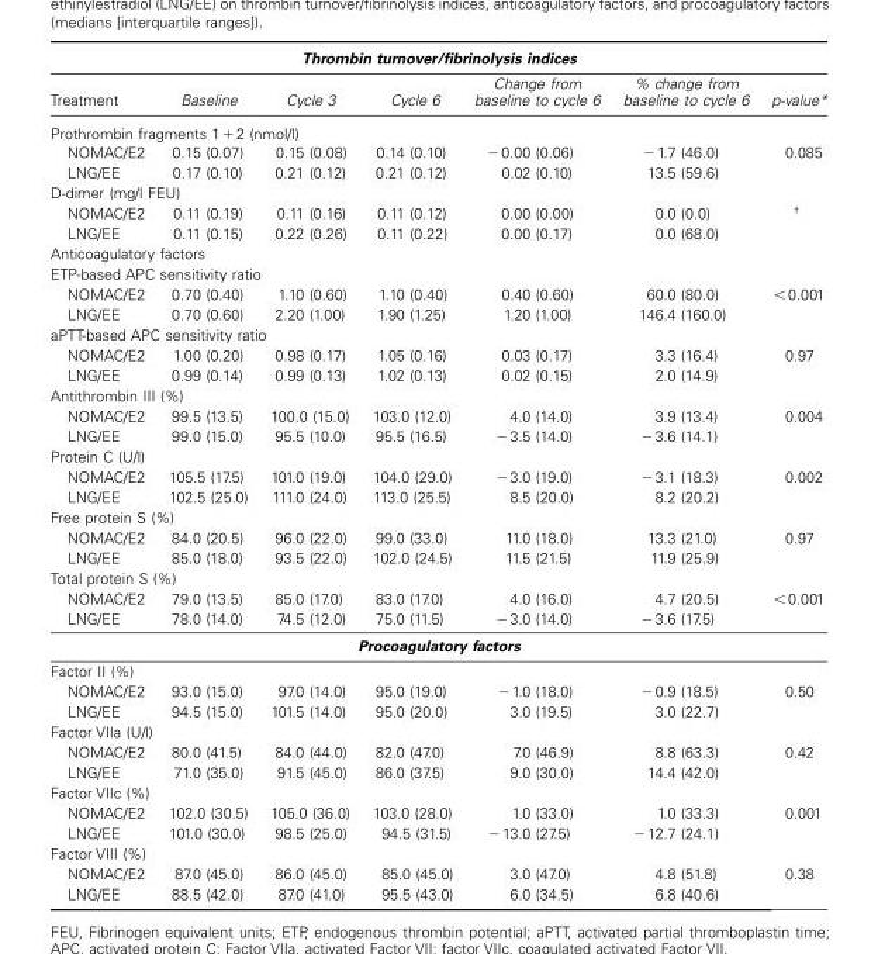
<table><thead><tr><td colspan="7">Thrombin turnover/fi brinolysis indices</td></tr><tr><td>Treatment</td><td>Baseline</td><td>Cycle 3</td><td>Cycle 6</td><td>Change from baseline to cycle 6</td><td>% change from baseline to cycle 6</td><td>p-value *</td></tr></thead><tbody><tr><td colspan="7">Prothrombin fragments 1 + 2 (nmol/l)</td></tr><tr><td>NOMAC/E2</td><td>0.15 (0.07)</td><td>0.15 (0.08)</td><td>0.14 (0.10)</td><td>− 0.00 (0.06)</td><td>− 1.7 (46.0)</td><td>0.085</td></tr><tr><td>LNG/EE</td><td>0.17 (0.10)</td><td>0.21 (0.12)</td><td>0.21 (0.12)</td><td>0.02 (0.10)</td><td>13.5 (59.6)</td><td></td></tr><tr><td colspan="7">D-dimer (mg/l FEU)</td></tr><tr><td>NOMAC/E2</td><td>0.11 (0.19)</td><td>0.11 (0.16)</td><td>0.11 (0.12)</td><td>0.00 (0.00)</td><td>0.0 (0.0)</td><td>†</td></tr><tr><td>LNG/EE</td><td>0.11 (0.15)</td><td>0.22 (0.26)</td><td>0.11 (0.22)</td><td>0.00 (0.17)</td><td>0.0 (68.0)</td><td></td></tr><tr><td colspan="7">Anticoagulatory factors</td></tr><tr><td colspan="7">ETP-based APC sensitivity ratio</td></tr><tr><td>NOMAC/E2</td><td>0.70 (0.40)</td><td>1.10 (0.60)</td><td>1.10 (0.40)</td><td>0.40 (0.60)</td><td>60.0 (80.0)</td><td>&lt; 0.001</td></tr><tr><td>LNG/EE</td><td>0.70 (0.60)</td><td>2.20 (1.00)</td><td>1.90 (1.25)</td><td>1.20 (1.00)</td><td>146.4 (160.0)</td><td></td></tr><tr><td colspan="7">aPTT-based APC sensitivity ratio</td></tr><tr><td>NOMAC/E2</td><td>1.00 (0.20)</td><td>0.98 (0.17)</td><td>1.05 (0.16)</td><td>0.03 (0.17)</td><td>3.3 (16.4)</td><td>0.97</td></tr><tr><td>LNG/EE</td><td>0.99 (0.14)</td><td>0.99 (0.13)</td><td>1.02 (0.13)</td><td>0.02 (0.15)</td><td>2.0 (14.9)</td><td></td></tr><tr><td colspan="7">Antithrombin III (%)</td></tr><tr><td>NOMAC/E2</td><td>99.5 (13.5)</td><td>100.0 (15.0)</td><td>103.0 (12.0)</td><td>4.0 (14.0)</td><td>3.9 (13.4)</td><td>0.004</td></tr><tr><td>LNG/EE</td><td>99.0 (15.0)</td><td>95.5 (10.0)</td><td>95.5 (16.5)</td><td>− 3.5 (14.0)</td><td>− 3.6 (14.1)</td><td></td></tr><tr><td colspan="7">Protein C (U/l)</td></tr><tr><td>NOMAC/E2</td><td>105.5 (17.5)</td><td>101.0 (19.0)</td><td>104.0 (29.0)</td><td>− 3.0 (19.0)</td><td>− 3.1 (18.3)</td><td>0.002</td></tr><tr><td>LNG/EE</td><td>102.5 (25.0)</td><td>111.0 (24.0)</td><td>113.0 (25.5)</td><td>8.5 (20.0)</td><td>8.2 (20.2)</td><td></td></tr><tr><td colspan="7">Free protein S (%)</td></tr><tr><td>NOMAC/E2</td><td>84.0 (20.5)</td><td>96.0 (22.0)</td><td>99.0 (33.0)</td><td>11.0 (18.0)</td><td>13.3 (21.0)</td><td>0.97</td></tr><tr><td>LNG/EE</td><td>85.0 (18.0)</td><td>93.5 (22.0)</td><td>102.0 (24.5)</td><td>11.5 (21.5)</td><td>11.9 (25.9)</td><td></td></tr><tr><td colspan="7">Total protein S (%)</td></tr><tr><td>NOMAC/E2</td><td>79.0 (13.5)</td><td>85.0 (17.0)</td><td>83.0 (17.0)</td><td>4.0 (16.0)</td><td>4.7 (20.5)</td><td>&lt; 0.001</td></tr><tr><td>LNG/EE</td><td>78.0 (14.0)</td><td>74.5 (12.0)</td><td>75.0 (11.5)</td><td>− 3.0 (14.0)</td><td>� 3.6 (17.5)</td><td></td></tr><tr><td colspan="7">Procoagulatory factors</td></tr><tr><td colspan="7">Factor II (%)</td></tr><tr><td>NOMAC/E2</td><td>93.0 (15.0)</td><td>97.0 (14.0)</td><td>95.0 (19.0)</td><td>− 1.0 (18.0)</td><td>− 0.9 (18.5)</td><td>0.50</td></tr><tr><td>LNG/EE</td><td>94.5 (15.0)</td><td>101.5 (14.0)</td><td>95.0 (20.0)</td><td>3.0 (19.5)</td><td>3.0 (22.7)</td><td></td></tr><tr><td colspan="7">Factor VIIa (U/l)</td></tr><tr><td>NOMAC/E2</td><td>80.0 (41.5)</td><td>84.0 (44.0)</td><td>82.0 (47.0)</td><td>7.0 (46.9)</td><td>8.8 (63.3)</td><td>0.42</td></tr><tr><td>LNG/EE</td><td>71.0 (35.0)</td><td>91.5 (45.0)</td><td>86.0 (37.5)</td><td>9.0 (30.0)</td><td>14.4 (42.0)</td><td></td></tr><tr><td colspan="7">Factor VIIc (%)</td></tr><tr><td>NOMAC/E2</td><td>102.0 (30.5)</td><td>105.0 (36.0)</td><td>103.0 (28.0)</td><td>1.0 (33.0)</td><td>1.0 (33.3)</td><td>0.001</td></tr><tr><td>LNG/EE</td><td>101.0 (30.0)</td><td>98.5 (25.0)</td><td>94.5 (31.5)</td><td>� 13.0 (27.5)</td><td>− 12.7 (24.1)</td><td></td></tr><tr><td colspan="7">Factor VIII (%)</td></tr><tr><td>NOMAC/E2</td><td>87.0 (45.0)</td><td>86.0 (45.0)</td><td>85.0 (45.0)</td><td>3.0 (47.0)</td><td>4.8 (51.8)</td><td>0.38</td></tr><tr><td>LNG/EE</td><td>88.5 (42.0)</td><td>87.0 (41.0)</td><td>95.5 (43.0)</td><td>6.0 (34.5)</td><td>6.8 (40.6)</td><td></td></tr></tbody></table>